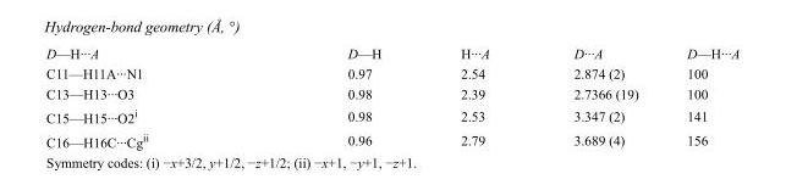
<table><tbody><tr><td>D—H···A</td><td>D—H</td><td>H···A</td><td>D···A</td><td>D—H···A</td></tr><tr><td>C11—H11A···N1</td><td>0.97</td><td>2.54</td><td>2.874 (2)</td><td>100</td></tr><tr><td>C13—H13···O3</td><td>0.98</td><td>2.39</td><td>2.7366 (19)</td><td>100</td></tr><tr><td>C15—H15···O2<sup>i</sup></td><td>0.98</td><td>2.53</td><td>3.347 (2)</td><td>141</td></tr><tr><td>C16—H16C···Cg<sup>ii</sup></td><td>0.96</td><td>2.79</td><td>3.689 (4)</td><td>156</td></tr></tbody></table>